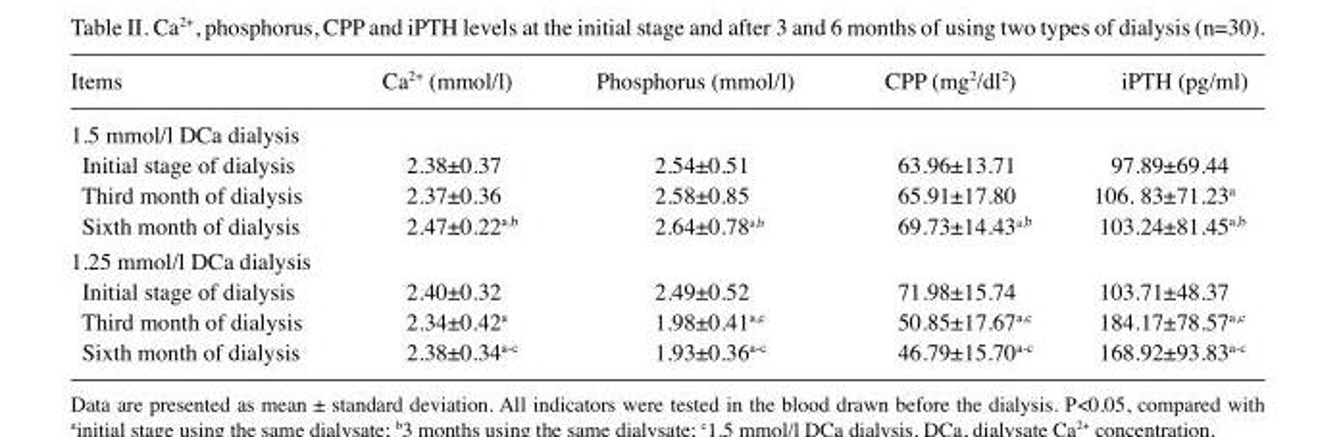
<table><thead><tr><td>Items</td><td>Ca<sup>2+</sup> (mmol/l)</td><td>Phosphorus (mmol/l)</td><td>CPP (mg<sup>2</sup>/dl<sup>2</sup>)</td><td>iPTH (pg/ml)</td></tr></thead><tbody><tr><td colspan="5">1.5 mmol/l DCa dialysis</td></tr><tr><td>Initial stage of dialysis</td><td>2.38±0.37</td><td>2.54±0.51</td><td>63.96±13.71</td><td>97.89±69.44</td></tr><tr><td>Third month of dialysis</td><td>2.37±0.36</td><td>2.58±0.85</td><td>65.91±17.80</td><td>106. 83±71.23<sup>a</sup></td></tr><tr><td>Sixth month of dialysis</td><td>2.47±0.22<sup>a,b</sup></td><td>2.64±0.78<sup>a,b</sup></td><td>69.73±14.43<sup>a,b</sup></td><td>103.24±81.45<sup>a,b</sup></td></tr><tr><td colspan="5">1.25 mmol/l DCa dialysis</td></tr><tr><td>Initial stage of dialysis</td><td>2.40±0.32</td><td>2.49±0.52</td><td>71.98±15.74</td><td>103.71±48.37</td></tr><tr><td>Third month of dialysis</td><td>2.34±0.42<sup>a</sup></td><td>1.98±0.41<sup>a,c</sup></td><td>50.85±17.67<sup>a,c</sup></td><td>184.17±78.57<sup>a,c</sup></td></tr><tr><td>Sixth month of dialysis</td><td>2.38±0.34<sup>a-c</sup></td><td>1.93±0.36<sup>a-c</sup></td><td>46.79±15.70<sup>a-c</sup></td><td>168.92±93.83<sup>a-c</sup></td></tr></tbody></table>